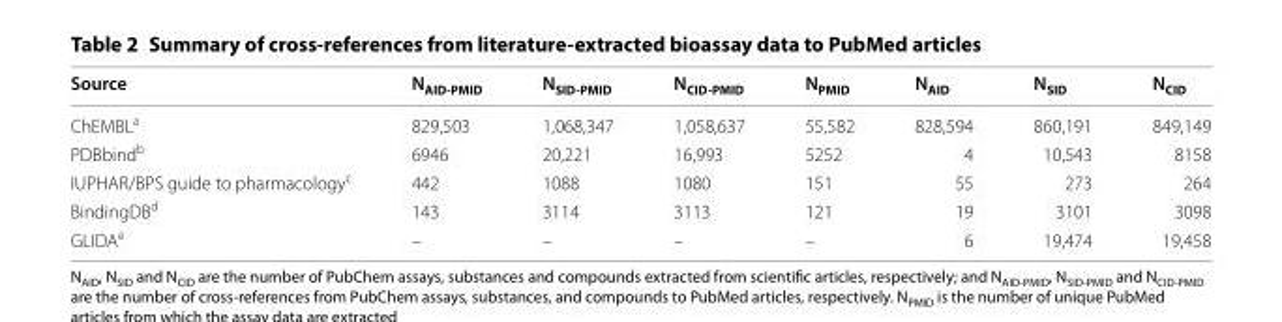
<table><thead><tr><td>Source</td><td>N<sub>AID-PMID</sub></td><td>N<sub>SID-PMID</sub></td><td>N<sub>CID-PMID</sub></td><td>N<sub>PMID</sub></td><td>N<sub>AID</sub></td><td>N<sub>SID</sub></td><td>N<sub>CID</sub></td></tr></thead><tbody><tr><td>ChEMBL<sup>a</sup></td><td>829,503</td><td>1,068,347</td><td>1,058,637</td><td>55,582</td><td>828,594</td><td>860,191</td><td>849,149</td></tr><tr><td>PDBbind<sup>b</sup></td><td>6946</td><td>20,221</td><td>16,993</td><td>5252</td><td>4</td><td>10,543</td><td>8158</td></tr><tr><td>IUPHAR/BPS guide to pharmacology<sup>c</sup></td><td>442</td><td>1088</td><td>1080</td><td>151</td><td>55</td><td>273</td><td>264</td></tr><tr><td>BindingDB<sup>d</sup></td><td>143</td><td>3114</td><td>3113</td><td>121</td><td>19</td><td>3101</td><td>3098</td></tr><tr><td>GLIDA<sup>e</sup></td><td>–</td><td>–</td><td>–</td><td>–</td><td>6</td><td>19,474</td><td>19,458</td></tr></tbody></table>